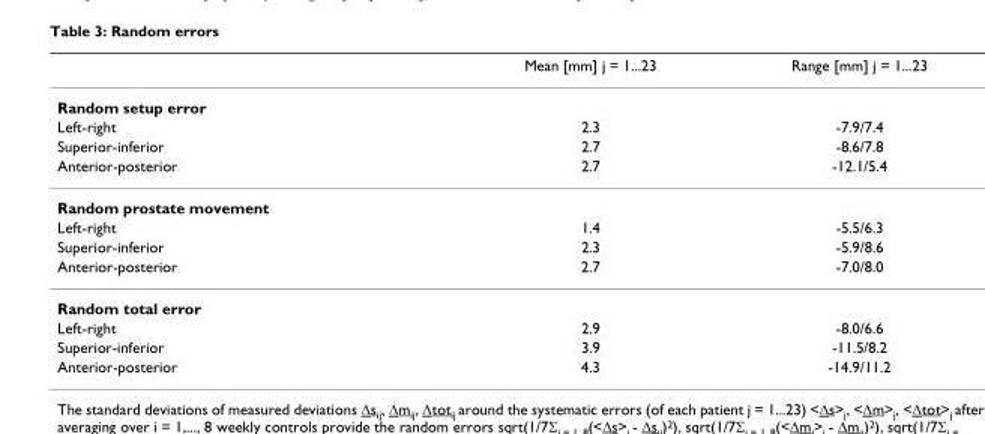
<table><thead><tr><td></td><td>Mean [mm] j = 1...23</td><td>Range [mm] j = 1...23</td></tr></thead><tbody><tr><td colspan="3">Random setup error</td></tr><tr><td>Left-right</td><td>2.3</td><td>-7.9/7.4</td></tr><tr><td>Superior-inferior</td><td>2.7</td><td>-8.6/7.8</td></tr><tr><td>Anterior-posterior</td><td>2.7</td><td>-12.1/5.4</td></tr><tr><td colspan="3">Random prostate movement</td></tr><tr><td>Left-right</td><td>1.4</td><td>-5.5/6.3</td></tr><tr><td>Superior-inferior</td><td>2.3</td><td>-5.9/8.6</td></tr><tr><td>Anterior-posterior</td><td>2.7</td><td>-7.0/8.0</td></tr><tr><td colspan="3">Random total error</td></tr><tr><td>Left-right</td><td>2.9</td><td>-8.0/6.6</td></tr><tr><td>Superior-inferior</td><td>3.9</td><td>-11.5/8.2</td></tr><tr><td>Anterior-posterior</td><td>4.3</td><td>-14.9/11.2</td></tr></tbody></table>